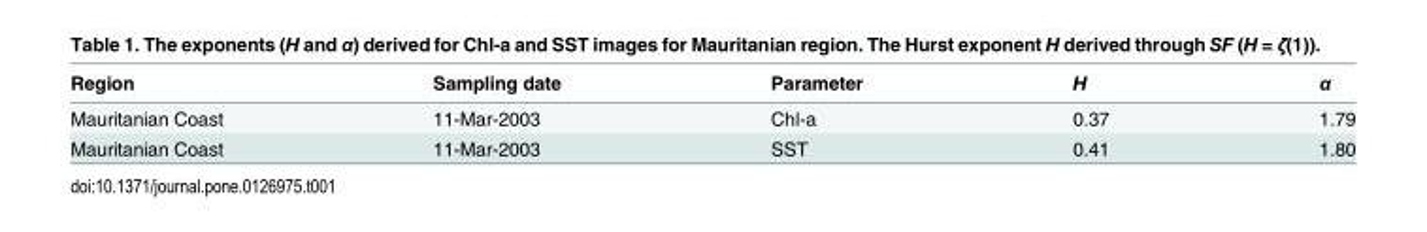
<table><thead><tr><td>Region</td><td>Sampling date</td><td>Parameter</td><td>H</td><td>α</td></tr></thead><tbody><tr><td>Mauritanian Coast</td><td>11-Mar-2003</td><td>Chl-a</td><td>0.37</td><td>1.79</td></tr><tr><td>Mauritanian Coast</td><td>11-Mar-2003</td><td>SST</td><td>0.41</td><td>1.80</td></tr></tbody></table>